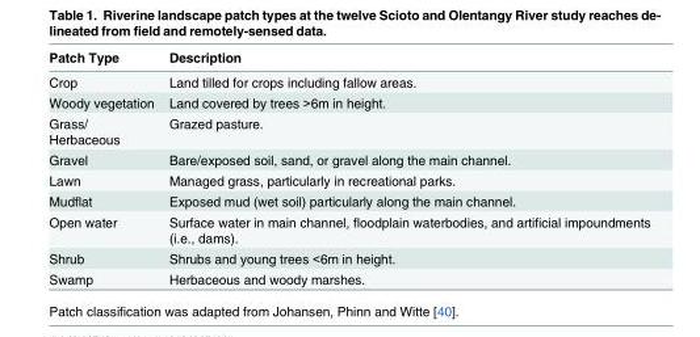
<table><thead><tr><td>Patch Type</td><td>Description</td></tr></thead><tbody><tr><td>Crop</td><td>Land tilled for crops including fallow areas.</td></tr><tr><td>Woody vegetation</td><td>Land covered by trees &gt;6m in height.</td></tr><tr><td>Grass/ Herbaceous</td><td>Grazed pasture.</td></tr><tr><td>Gravel</td><td>Bare/exposed soil, sand, or gravel along the main channel.</td></tr><tr><td>Lawn</td><td>Managed grass, particularly in recreational parks.</td></tr><tr><td>Mudflat</td><td>Exposed mud (wet soil) particularly along the main channel.</td></tr><tr><td>Open water</td><td>Surface water in main channel, floodplain waterbodies, and artificial impoundments (i.e., dams).</td></tr><tr><td>Shrub</td><td>Shrubs and young trees &lt;6m in height.</td></tr><tr><td>Swamp</td><td>Herbaceous and woody marshes.</td></tr></tbody></table>